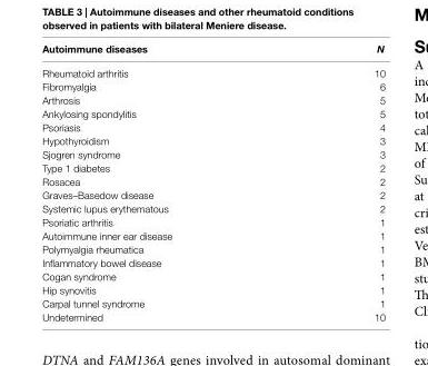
<table><thead><tr><td>autoimmune diseases</td><td>N</td></tr></thead><tbody><tr><td>Rheumatoid arthritis</td><td>10</td></tr><tr><td>Fibromyalgia</td><td>6</td></tr><tr><td>Arthrosis</td><td>5</td></tr><tr><td>Ankylosing spondylitis</td><td>5</td></tr><tr><td>Psoriasis</td><td>4</td></tr><tr><td>Hypothyroidism</td><td>3</td></tr><tr><td>Sjogren syndrome</td><td>3</td></tr><tr><td>Type 1 diabetes</td><td>2</td></tr><tr><td>Rosacea</td><td>2</td></tr><tr><td>Graves–Basedow disease</td><td>2</td></tr><tr><td>Systemic lupus erythematous</td><td>2</td></tr><tr><td>Psoriatic arthritis</td><td>1</td></tr><tr><td>Autoimmune inner ear disease</td><td>1</td></tr><tr><td>Polymyalgia rheumatica</td><td>1</td></tr><tr><td>Inflammatory bowel disease</td><td>1</td></tr><tr><td>Cogan syndrome</td><td>1</td></tr><tr><td>Hip synovitis</td><td>1</td></tr><tr><td>Carpal tunnel syndrome</td><td>1</td></tr><tr><td>Undetermined</td><td>10</td></tr></tbody></table>